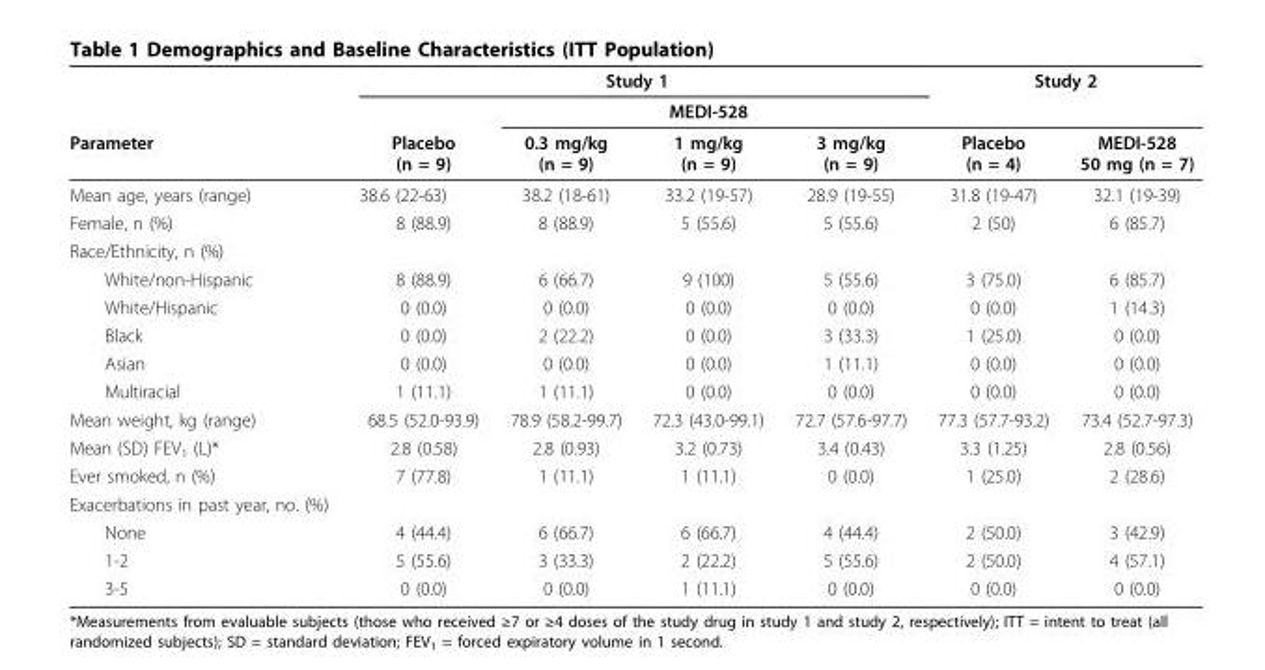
<table><thead><tr><td rowspan="3">Parameter</td><td colspan="4">Study 1</td><td colspan="2">Study 2</td></tr><tr><td rowspan="2">Placebo (n = 9)</td><td colspan="3">MEDI-528</td><td rowspan="2">Placebo (n = 4)</td><td rowspan="2">MEDI-528 50 mg (n = 7)</td></tr><tr><td>0.3 mg/kg (n = 9)</td><td>1 mg/kg (n = 9)</td><td>3 mg/kg (n = 9)</td></tr></thead><tbody><tr><td>Mean age, years (range)</td><td>38.6 (22-63)</td><td>38.2 (18-61)</td><td>33.2 (19-57)</td><td>28.9 (19-55)</td><td>31.8 (19-47)</td><td>32.1 (19-39)</td></tr><tr><td>Female, n (%)</td><td>8 (88.9)</td><td>8 (88.9)</td><td>5 (55.6)</td><td>5 (55.6)</td><td>2 (50)</td><td>6 (85.7)</td></tr><tr><td colspan="7">Race/Ethnicity, n (%)</td></tr><tr><td>White/non-Hispanic</td><td>8 (88.9)</td><td>6 (66.7)</td><td>9 (100)</td><td>5 (55.6)</td><td>3 (75.0)</td><td>6 (85.7)</td></tr><tr><td>White/Hispanic</td><td>0 (0.0)</td><td>0 (0.0)</td><td>0 (0.0)</td><td>0 (0.0)</td><td>0 (0.0)</td><td>1 (14.3)</td></tr><tr><td>Black</td><td>0 (0.0)</td><td>2 (22.2)</td><td>0 (0.0)</td><td>3 (33.3)</td><td>1 (25.0)</td><td>0 (0.0)</td></tr><tr><td>Asian</td><td>0 (0.0)</td><td>0 (0.0)</td><td>0 (0.0)</td><td>1 (11.1)</td><td>0 (0.0)</td><td>0 (0.0)</td></tr><tr><td>Multiracial</td><td>1 (11.1)</td><td>1 (11.1)</td><td>0 (0.0)</td><td>0 (0.0)</td><td>0 (0.0)</td><td>0 (0.0)</td></tr><tr><td>Mean weight, kg (range)</td><td>68.5 (52.0-93.9)</td><td>78.9 (58.2-99.7)</td><td>72.3 (43.0-99.1)</td><td>72.7 (57.6-97.7)</td><td>77.3 (57.7-93.2)</td><td>73.4 (52.7-97.3)</td></tr><tr><td>Mean (SD) FEV<sub>1</sub> (L)*</td><td>2.8 (0.58)</td><td>2.8 (0.93)</td><td>3.2 (0.73)</td><td>3.4 (0.43)</td><td>3.3 (1.25)</td><td>2.8 (0.56)</td></tr><tr><td>Ever smoked, n (%)</td><td>7 (77.8)</td><td>1 (11.1)</td><td>1 (11.1)</td><td>0 (0.0)</td><td>1 (25.0)</td><td>2 (28.6)</td></tr><tr><td colspan="7">Exacerbations in past year, no. (%)</td></tr><tr><td>None</td><td>4 (44.4)</td><td>6 (66.7)</td><td>6 (66.7)</td><td>4 (44.4)</td><td>2 (50.0)</td><td>3 (42.9)</td></tr><tr><td>1-2</td><td>5 (55.6)</td><td>3 (33.3)</td><td>2 (22.2)</td><td>5 (55.6)</td><td>2 (50.0)</td><td>4 (57.1)</td></tr><tr><td>3-5</td><td>0 (0.0)</td><td>0 (0.0)</td><td>1 (11.1)</td><td>0 (0.0)</td><td>0 (0.0)</td><td>0 (0.0)</td></tr></tbody></table>